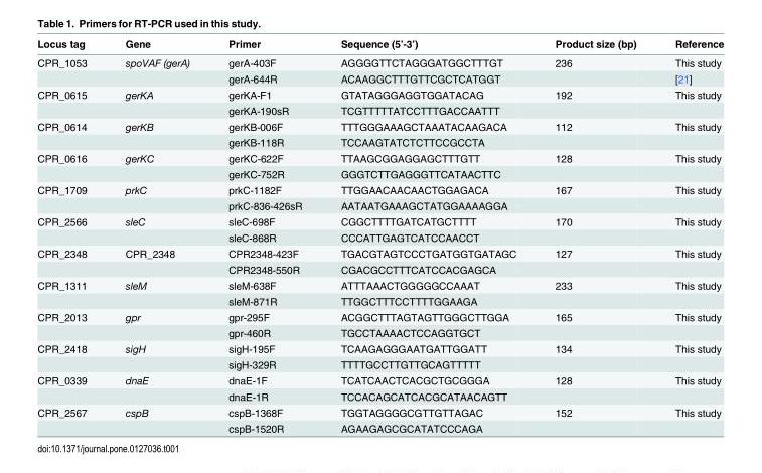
<table><thead><tr><td>Locus tag</td><td>Gene</td><td>Primer</td><td>Sequence (5’-3’)</td><td>Product size (bp)</td><td>Reference</td></tr></thead><tbody><tr><td rowspan="2">CPR_1053</td><td>spoVAF (gerA)</td><td>gerA-403F</td><td>AGGGGTTCTAGGGATGGCTTTGT</td><td>236</td><td>This study</td></tr><tr><td></td><td>gerA-644R</td><td>ACAAGGCTTTGTTCGCTCATGGT</td><td></td><td>[21]</td></tr><tr><td rowspan="2">CPR_0615</td><td>gerKA</td><td>gerKA-F1</td><td>GTATAGGGAGGTGGATACAG</td><td>192</td><td>This study</td></tr><tr><td></td><td>gerKA-190sR</td><td>TCGTTTTTATCCTTTGACCAATTT</td><td></td><td></td></tr><tr><td rowspan="2">CPR_0614</td><td>gerKB</td><td>gerKB-006F</td><td>TTTGGGAAAGCTAAATACAAGACA</td><td>112</td><td>This study</td></tr><tr><td></td><td>gerKB-118R</td><td>TCCAAGTATCTCTTCCGCCTA</td><td></td><td></td></tr><tr><td rowspan="2">CPR_0616</td><td>gerKC</td><td>gerKC-622F</td><td>TTAAGCGGAGGAGCTTTGTT</td><td>128</td><td>This study</td></tr><tr><td></td><td>gerKC-752R</td><td>GGGTCTTGAGGGTTCATAACTTC</td><td></td><td></td></tr><tr><td rowspan="2">CPR_1709</td><td>prkC</td><td>prkC-1182F</td><td>TTGGAACAACAACTGGAGACA</td><td>167</td><td>This study</td></tr><tr><td></td><td>prkC-836-426sR</td><td>AATAATGAAAGCTATGGAAAAGGA</td><td></td><td></td></tr><tr><td rowspan="2">CPR_2566</td><td>sleC</td><td>sleC-698F</td><td>CGGCTTTTGATCATGCTTTT</td><td>170</td><td>This study</td></tr><tr><td></td><td>sleC-868R</td><td>CCCATTGAGTCATCCAACCT</td><td></td><td></td></tr><tr><td rowspan="2">CPR_2348</td><td>CPR_2348</td><td>CPR2348-423F</td><td>TGACGTAGTCCCTGATGGTGATAGC</td><td>127</td><td>This study</td></tr><tr><td></td><td>CPR2348-550R</td><td>CGACGCCTTTCATCCACGAGCA</td><td></td><td></td></tr><tr><td rowspan="2">CPR_1311</td><td>sleM</td><td>sleM-638F</td><td>ATTTAAACTGGGGGCCAAAT</td><td>233</td><td>This study</td></tr><tr><td></td><td>sleM-871R</td><td>TTGGCTTTCCTTTTGGAAGA</td><td></td><td></td></tr><tr><td rowspan="2">CPR_2013</td><td>gpr</td><td>gpr-295F</td><td>ACGGCTTTAGTAGTTGGGCTTGGA</td><td>165</td><td>This study</td></tr><tr><td></td><td>gpr-460R</td><td>TGCCTAAAACTCCAGGTGCT</td><td></td><td></td></tr><tr><td rowspan="2">CPR_2418</td><td>sigH</td><td>sigH-195F</td><td>TCAAGAGGGAATGATTGGATT</td><td>134</td><td>This study</td></tr><tr><td></td><td>sigH-329R</td><td>TTTTGCCTTGTTGCAGTTTTT</td><td></td><td></td></tr><tr><td rowspan="2">CPR_0339</td><td>dnaE</td><td>dnaE-1F</td><td>TCATCAACTCACGCTGCGGGA</td><td>128</td><td>This study</td></tr><tr><td></td><td>dnaE-1R</td><td>TCCACAGCATCACGCATAACAGTT</td><td></td><td></td></tr><tr><td rowspan="2">CPR_2567</td><td>cspB</td><td>cspB-1368F</td><td>TGGTAGGGGCGTTGTTAGAC</td><td>152</td><td>This study</td></tr><tr><td></td><td>cspB-1520R</td><td>AGAAGAGCGCATATCCCAGA</td><td></td><td></td></tr></tbody></table>